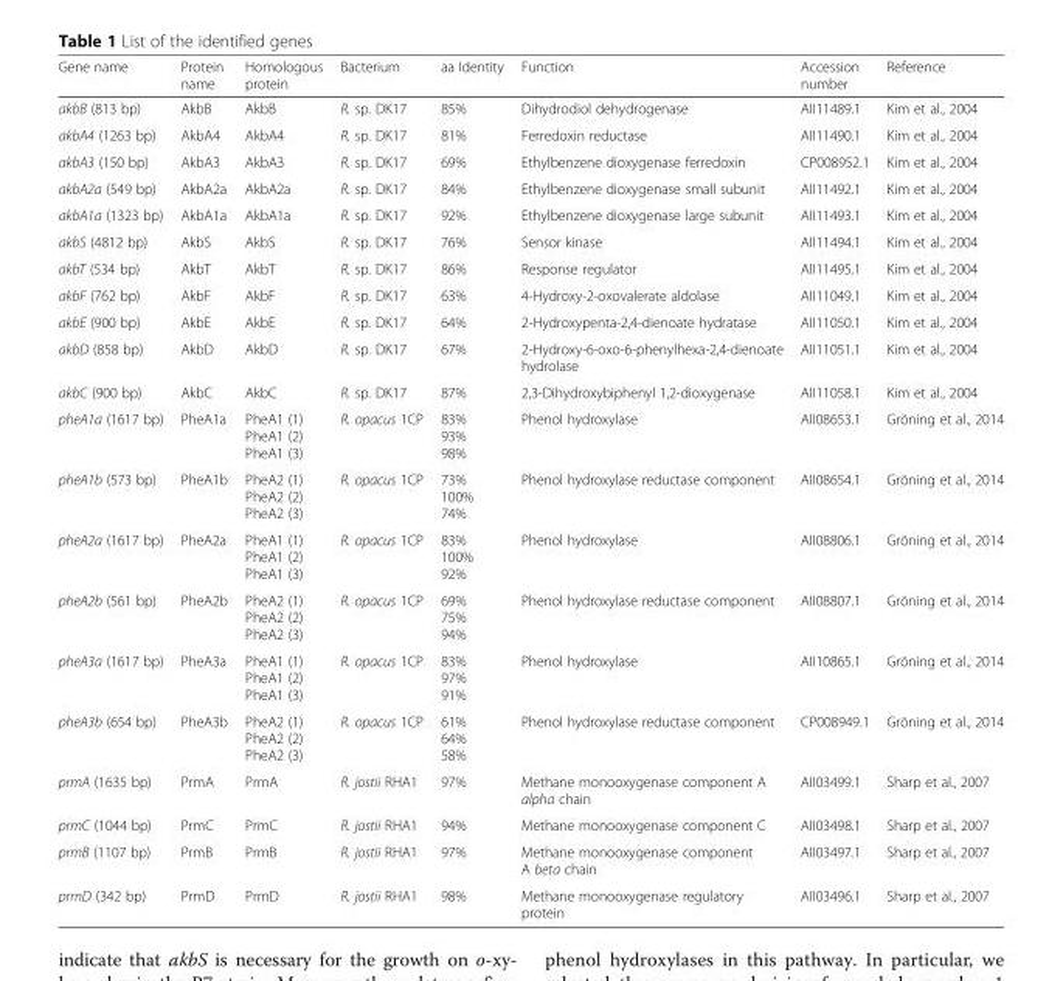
<table><thead><tr><td>Gene name</td><td>Protein name</td><td>Homologous protein</td><td>Bacterium</td><td>aa Identity</td><td>Function</td><td>Accession number</td><td>Reference</td></tr></thead><tbody><tr><td>akbB (813 bp)</td><td>AkbB</td><td>AkbB</td><td>R. sp. DK17</td><td>85%</td><td>Dihydrodiol dehydrogenase</td><td>AII11489.1</td><td>Kim et al., 2004</td></tr><tr><td>akbA4 (1263 bp)</td><td>AkbA4</td><td>AkbA4</td><td>R. sp. DK17</td><td>81%</td><td>Ferredoxin reductase</td><td>AII11490.1</td><td>Kim et al., 2004</td></tr><tr><td>akbA3 (150 bp)</td><td>AkbA3</td><td>AkbA3</td><td>R. sp. DK17</td><td>69%</td><td>Ethylbenzene dioxygenase ferredoxin</td><td>CP008952.1</td><td>Kim et al., 2004</td></tr><tr><td>akbA2a (549 bp)</td><td>AkbA2a</td><td>AkbA2a</td><td>R. sp. DK17</td><td>84%</td><td>Ethylbenzene dioxygenase small subunit</td><td>AII11492.1</td><td>Kim et al., 2004</td></tr><tr><td>akbA1a (1323 bp)</td><td>AkbA1a</td><td>AkbA1a</td><td>R. sp. DK17</td><td>92%</td><td>Ethylbenzene dioxygenase large subunit</td><td>AII11493.1</td><td>Kim et al., 2004</td></tr><tr><td>akbS (4812 bp)</td><td>AkbS</td><td>AkbS</td><td>R. sp. DK17</td><td>76%</td><td>Sensor kinase</td><td>AII11494.1</td><td>Kim et al., 2004</td></tr><tr><td>akbT (534 bp)</td><td>AkbT</td><td>AkbT</td><td>R. sp. DK17</td><td>86%</td><td>Response regulator</td><td>AII11495.1</td><td>Kim et al., 2004</td></tr><tr><td>akbF (762 bp)</td><td>AkbF</td><td>AkbF</td><td>R. sp. DK17</td><td>63%</td><td>4-Hydroxy-2-oxovalerate aldolase</td><td>AII11049.1</td><td>Kim et al., 2004</td></tr><tr><td>akbE (900 bp)</td><td>AkbE</td><td>AkbE</td><td>R. sp. DK17</td><td>64%</td><td>2-Hydroxypenta-2,4-dienoate hydratase</td><td>AII11050.1</td><td>Kim et al., 2004</td></tr><tr><td>akbD (858 bp)</td><td>AkbD</td><td>AkbD</td><td>R. sp. DK17</td><td>67%</td><td>2-Hydroxy-6-oxo-6-phenylhexa-2,4-dienoate hydrolase</td><td>AII11051.1</td><td>Kim et al., 2004</td></tr><tr><td>akbC (900 bp)</td><td>AkbC</td><td>AkbC</td><td>R. sp. DK17</td><td>87%</td><td>2,3-Dihydroxybiphenyl 1,2-dioxygenase</td><td>AII11058.1</td><td>Kim et al., 2004</td></tr><tr><td>pheA1a (1617 bp)</td><td>PheA1a</td><td>PheA1 (1) PheA1 (2) PheA1 (3)</td><td>R. opacus 1CP</td><td>83% 93% 98%</td><td>Phenol hydroxylase</td><td>AII08653.1</td><td>Gröning et al., 2014</td></tr><tr><td>pheA1b (573 bp)</td><td>PheA1b</td><td>PheA2 (1) PheA2 (2) PheA2 (3)</td><td>R. opacus 1CP</td><td>73% 100% 74%</td><td>Phenol hydroxylase reductase component</td><td>AII08654.1</td><td>Gröning et al., 2014</td></tr><tr><td>pheA2a (1617 bp)</td><td>PheA2a</td><td>PheA1 (1) PheA1 (2) PheA1 (3)</td><td>R. opacus 1CP</td><td>83% 100% 92%</td><td>Phenol hydroxylase</td><td>AII08806.1</td><td>Gröning et al., 2014</td></tr><tr><td>pheA2b (561 bp)</td><td>PheA2b</td><td>PheA2 (1) PheA2 (2) PheA2 (3)</td><td>R. opacus 1CP</td><td>69% 75% 94%</td><td>Phenol hydroxylase reductase component</td><td>AII08807.1</td><td>Gröning et al., 2014</td></tr><tr><td>pheA3a (1617 bp)</td><td>PheA3a</td><td>PheA1 (1) PheA1 (2) PheA1 (3)</td><td>R. opacus 1CP</td><td>83% 97% 91%</td><td>Phenol hydroxylase</td><td>AII10865.1</td><td>Gröning et al., 2014</td></tr><tr><td>pheA3b (654 bp)</td><td>PheA3b</td><td>PheA2 (1) PheA2 (2) PheA2 (3)</td><td>R. opacus 1CP</td><td>61% 64% 58%</td><td>Phenol hydroxylase reductase component</td><td>CP008949.1</td><td>Gröning et al., 2014</td></tr><tr><td>prmA (1635 bp)</td><td>PrmA</td><td>PrmA</td><td>R. jostii RHA1</td><td>97%</td><td>Methane monooxygenase component A alpha chain</td><td>AII03499.1</td><td>Sharp et al., 2007</td></tr><tr><td>prmC (1044 bp)</td><td>PrmC</td><td>PrmC</td><td>R. jostii RHA1</td><td>94%</td><td>Methane monooxygenase component C</td><td>AII03498.1</td><td>Sharp et al., 2007</td></tr><tr><td>prmB (1107 bp)</td><td>PrmB</td><td>PrmB</td><td>R. jostii RHA1</td><td>97%</td><td>Methane monooxygenase component A beta chain</td><td>AII03497.1</td><td>Sharp et al., 2007</td></tr><tr><td>prmD (342 bp)</td><td>PrmD</td><td>PrmD</td><td>R. jostii RHA1</td><td>98%</td><td>Methane monooxygenase regulatory protein</td><td>AII03496.1</td><td>Sharp et al., 2007</td></tr></tbody></table>